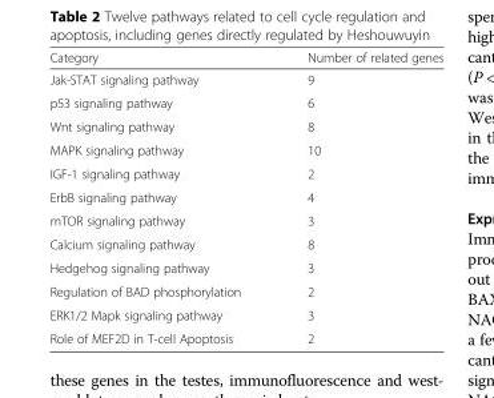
<table><thead><tr><td>Category</td><td>Number of related genes</td></tr></thead><tbody><tr><td>Jak-STAT signaling pathway</td><td>9</td></tr><tr><td>p53 signaling pathway</td><td>6</td></tr><tr><td>Wnt signaling pathway</td><td>8</td></tr><tr><td>MAPK signaling pathway</td><td>10</td></tr><tr><td>IGF-1 signaling pathway</td><td>2</td></tr><tr><td>ErbB signaling pathway</td><td>4</td></tr><tr><td>mTOR signaling pathway</td><td>3</td></tr><tr><td>Calcium signaling pathway</td><td>8</td></tr><tr><td>Hedgehog signaling pathway</td><td>3</td></tr><tr><td>Regulation of BAD phosphorylation</td><td>2</td></tr><tr><td>ERK1/2 Mapk signaling pathway</td><td>3</td></tr><tr><td>Role of MEF2D in T-cell Apoptosis</td><td>2</td></tr></tbody></table>